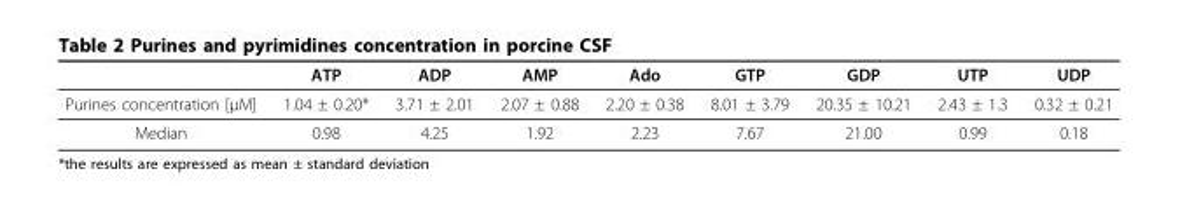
<table><thead><tr><td></td><td>ATP</td><td>ADP</td><td>AMP</td><td>Ado</td><td>GTP</td><td>GDP</td><td>UTP</td><td>UDP</td></tr></thead><tbody><tr><td>Purines concentration [μM]</td><td>1.04 ± 0.20*</td><td>3.71 ± 2.01</td><td>2.07 ± 0.88</td><td>2.20 ± 0.38</td><td>8.01 ± 3.79</td><td>20.35 ± 10.21</td><td>2.43 ± 1.3</td><td>0.32 ± 0.21</td></tr><tr><td>Median</td><td>0.98</td><td>4.25</td><td>1.92</td><td>2.23</td><td>7.67</td><td>21.00</td><td>0.99</td><td>0.18</td></tr></tbody></table>